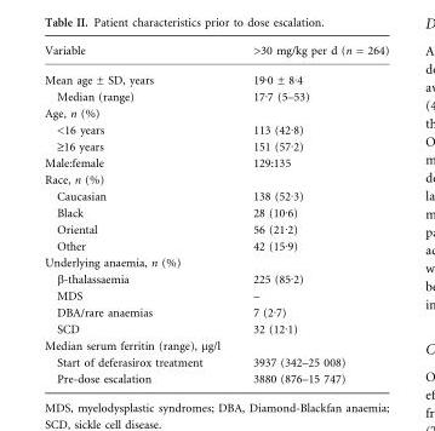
<table><thead><tr><td>Variable</td><td>&gt;30 mg/kg per d (n = 264)</td></tr></thead><tbody><tr><td>Mean age ± SD, years</td><td>19Æ0 ± 8Æ4</td></tr><tr><td>Median (range)</td><td>17Æ7 (5–53)</td></tr><tr><td colspan="2">Age, n (%)</td></tr><tr><td>&lt;16 years</td><td>113 (42Æ8)</td></tr><tr><td>‡16 years</td><td>151 (57Æ2)</td></tr><tr><td>Male:female</td><td>129:135</td></tr><tr><td colspan="2">Race, n (%)</td></tr><tr><td>Caucasian</td><td>138 (52Æ3)</td></tr><tr><td>Black</td><td>28 (10Æ6)</td></tr><tr><td>Oriental</td><td>56 (21Æ2)</td></tr><tr><td>Other</td><td>42 (15Æ9)</td></tr><tr><td colspan="2">Underlying anaemia, n (%)</td></tr><tr><td>β-thalassaemia</td><td>225 (85Æ2)</td></tr><tr><td>MDS</td><td>–</td></tr><tr><td>DBA/rare anaemias</td><td>7 (2Æ7)</td></tr><tr><td>SCD</td><td>32 (12Æ1)</td></tr><tr><td colspan="2">Median serum ferritin (range), μg/l</td></tr><tr><td>Start of deferasirox treatment</td><td>3937 (342–25 008)</td></tr><tr><td>Pre-dose escalation</td><td>3880 (876–15 747)</td></tr></tbody></table>